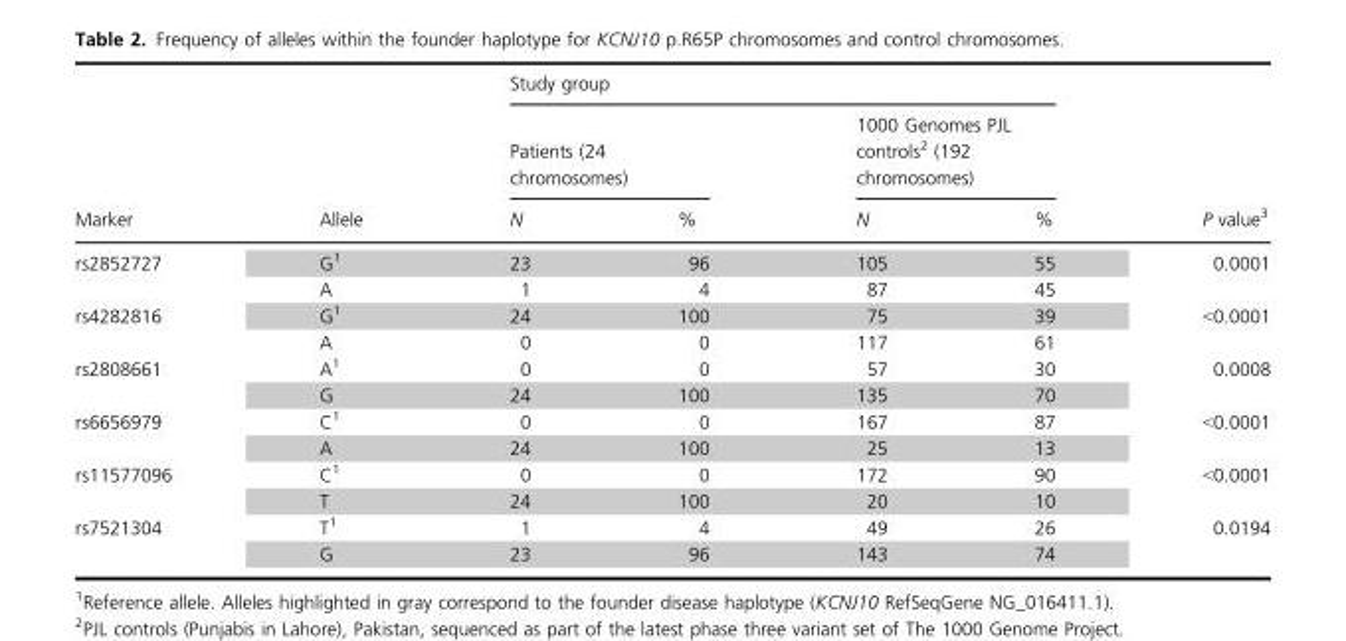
<table><thead><tr><td rowspan="3">Marker</td><td rowspan="3">Allele</td><td colspan="4">Study group</td><td rowspan="3">P value3</td></tr><tr><td colspan="2">Patients (24 chromosomes)</td><td colspan="2">1000 Genomes PJL controls2 (192 chromosomes)</td></tr><tr><td>N</td><td>%</td><td>N</td><td>%</td></tr></thead><tbody><tr><td rowspan="2">rs2852727</td><td>G1</td><td>23</td><td>96</td><td>105</td><td>55</td><td rowspan="2">0.0001</td></tr><tr><td>A</td><td>1</td><td>4</td><td>87</td><td>45</td></tr><tr><td rowspan="2">rs4282816</td><td>G1</td><td>24</td><td>100</td><td>75</td><td>39</td><td rowspan="2">&lt;0.0001</td></tr><tr><td>A</td><td>0</td><td>0</td><td>117</td><td>61</td></tr><tr><td rowspan="2">rs2808661</td><td>A1</td><td>0</td><td>0</td><td>57</td><td>30</td><td rowspan="2">0.0008</td></tr><tr><td>G</td><td>24</td><td>100</td><td>135</td><td>70</td></tr><tr><td rowspan="2">rs6656979</td><td>C1</td><td>0</td><td>0</td><td>167</td><td>87</td><td rowspan="2">&lt;0.0001</td></tr><tr><td>A</td><td>24</td><td>100</td><td>25</td><td>13</td></tr><tr><td rowspan="2">rs11577096</td><td>C1</td><td>0</td><td>0</td><td>172</td><td>90</td><td rowspan="2">&lt;0.0001</td></tr><tr><td>T</td><td>24</td><td>100</td><td>20</td><td>10</td></tr><tr><td rowspan="2">rs7521304</td><td>T1</td><td>1</td><td>4</td><td>49</td><td>26</td><td rowspan="2">0.0194</td></tr><tr><td>G</td><td>23</td><td>96</td><td>143</td><td>74</td></tr></tbody></table>